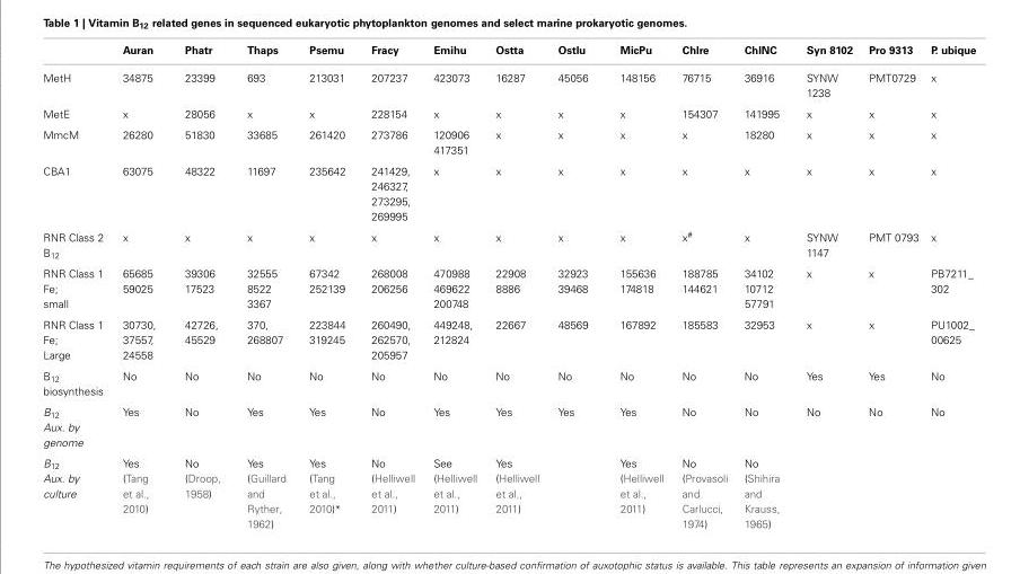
<table><thead><tr><td></td><td>Auran</td><td>Phatr</td><td>Thaps</td><td>Psemu</td><td>Fracy</td><td>Emihu</td><td>Ostta</td><td>Ostlu</td><td>MicPu</td><td>Chlre</td><td>ChlNC</td><td>Syn 8102</td><td>Pro 9313</td><td>P. ubique</td></tr></thead><tbody><tr><td>MetH</td><td>34875</td><td>23399</td><td>693</td><td>213031</td><td>207237</td><td>423073</td><td>16287</td><td>45056</td><td>148156</td><td>76715</td><td>36916</td><td>SYNW 1238</td><td>PMT0729</td><td>x</td></tr><tr><td>MetE</td><td>x</td><td>28056</td><td>x</td><td>x</td><td>228154</td><td>x</td><td>x</td><td>x</td><td>x</td><td>154307</td><td>141995</td><td>x</td><td>x</td><td>x</td></tr><tr><td>MmcM</td><td>26280</td><td>51830</td><td>33685</td><td>261420</td><td>273786</td><td>120906 417351</td><td>x</td><td>x</td><td>x</td><td>x</td><td>18280</td><td>x</td><td>x</td><td>x</td></tr><tr><td>CBA1</td><td>63075</td><td>48322</td><td>11697</td><td>235642</td><td>241429, 246327, 273295, 269995</td><td>x</td><td>x</td><td>x</td><td>x</td><td>x</td><td>x</td><td>x</td><td>x</td><td>x</td></tr><tr><td>RNR Class 2 B<sub>12</sub></td><td>x</td><td>x</td><td>x</td><td>x</td><td>x</td><td>x</td><td>x</td><td>x</td><td>x</td><td>x<sup>#</sup></td><td>x</td><td>SYNW 1147</td><td>PMT 0793</td><td>x</td></tr><tr><td>RNR Class 1 Fe; small</td><td>65685 59025</td><td>39306 17523</td><td>32555 8522 3367</td><td>67342 252139</td><td>268008 206256</td><td>470988 469622 200748</td><td>22908 8886</td><td>32923 39468</td><td>155636 174818</td><td>188785 144621</td><td>34102 10712 57791</td><td>x</td><td>x</td><td>PB7211_ 302</td></tr><tr><td>RNR Class 1 Fe; Large</td><td>30730, 37557, 24558</td><td>42726, 45529</td><td>370, 268807</td><td>223844 319245</td><td>260490, 262570, 205957</td><td>449248, 212824</td><td>22667</td><td>48569</td><td>167892</td><td>185583</td><td>32953</td><td>x</td><td>x</td><td>PU1002_ 00625</td></tr><tr><td>B<sub>12</sub> biosynthesis</td><td>No</td><td>No</td><td>No</td><td>No</td><td>No</td><td>No</td><td>No</td><td>No</td><td>No</td><td>No</td><td>No</td><td>Yes</td><td>Yes</td><td>No</td></tr><tr><td>B<sub>12</sub> Aux. by genome</td><td>Yes</td><td>No</td><td>Yes</td><td>Yes</td><td>No</td><td>Yes</td><td>Yes</td><td>Yes</td><td>Yes</td><td>No</td><td>No</td><td>No</td><td>No</td><td>No</td></tr><tr><td>B<sub>12</sub> Aux. by culture</td><td>Yes (Tang et al., 2010)</td><td>No (Droop, 1958)</td><td>Yes (Guillard and Ryther, 1962)</td><td>Yes (Tang et al., 2010)*</td><td>No (Helliwell et al., 2011)</td><td>See (Helliwell et al., 2011)</td><td>Yes (Helliwell et al., 2011)</td><td></td><td>Yes (Helliwell et al., 2011)</td><td>No (Provasoli and Carlucci, 1974)</td><td>No (Shihira and Krauss, 1965)</td><td></td><td></td><td></td></tr></tbody></table>